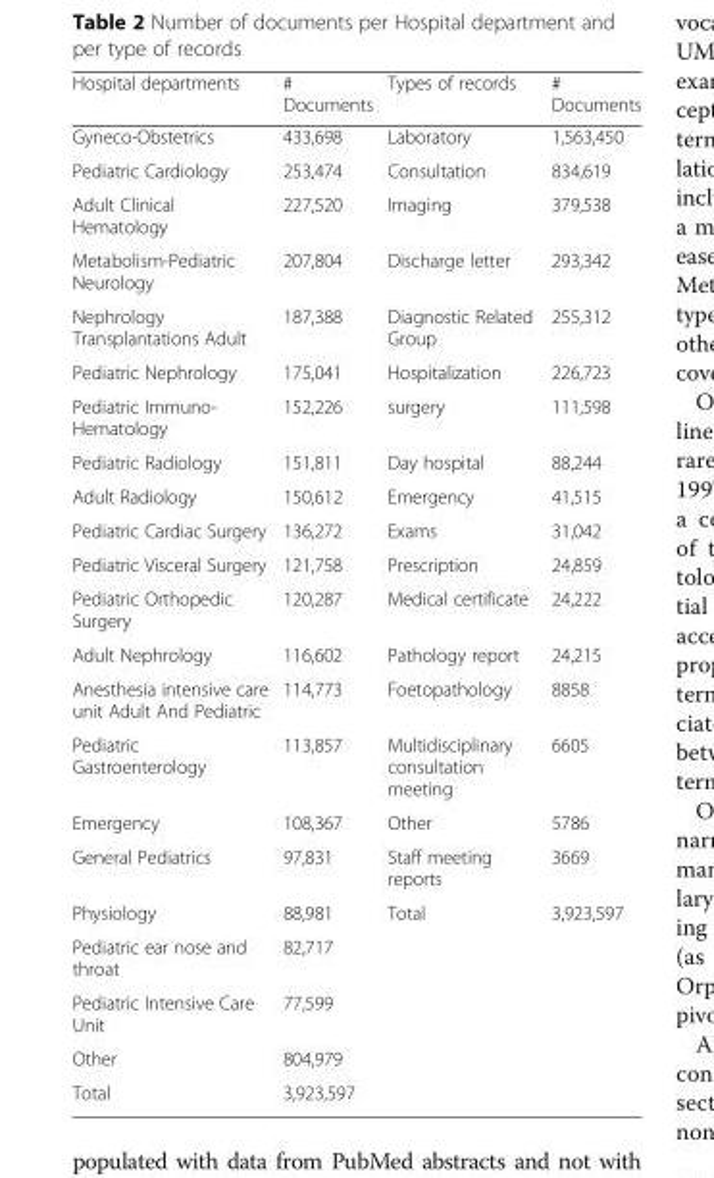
<table><thead><tr><td>Hospital departments</td><td># Documents</td><td>Types of records</td><td># Documents</td></tr></thead><tbody><tr><td>Gyneco-Obstetrics</td><td>433,698</td><td>Laboratory</td><td>1,563,450</td></tr><tr><td>Pediatric Cardiology</td><td>253,474</td><td>Consultation</td><td>834,619</td></tr><tr><td>Adult Clinical Hematology</td><td>227,520</td><td>Imaging</td><td>379,538</td></tr><tr><td>Metabolism-Pediatric Neurology</td><td>207,804</td><td>Discharge letter</td><td>293,342</td></tr><tr><td>Nephrology Transplantations Adult</td><td>187,388</td><td>Diagnostic Related Group</td><td>255,312</td></tr><tr><td>Pediatric Nephrology</td><td>175,041</td><td>Hospitalization</td><td>226,723</td></tr><tr><td>Pediatric Immuno- Hematology</td><td>152,226</td><td>surgery</td><td>111,598</td></tr><tr><td>Pediatric Radiology</td><td>151,811</td><td>Day hospital</td><td>88,244</td></tr><tr><td>Adult Radiology</td><td>150,612</td><td>Emergency</td><td>41,515</td></tr><tr><td>Pediatric Cardiac Surgery</td><td>136,272</td><td>Exams</td><td>31,042</td></tr><tr><td>Pediatric Visceral Surgery</td><td>121,758</td><td>Prescription</td><td>24,859</td></tr><tr><td>Pediatric Orthopedic Surgery</td><td>120,287</td><td>Medical certificate</td><td>24,222</td></tr><tr><td>Adult Nephrology</td><td>116,602</td><td>Pathology report</td><td>24,215</td></tr><tr><td>Anesthesia intensive care unit Adult And Pediatric</td><td>114,773</td><td>Foetopathology</td><td>8858</td></tr><tr><td>Pediatric Gastroenterology</td><td>113,857</td><td>Multidisciplinary consultation meeting</td><td>6605</td></tr><tr><td>Emergency</td><td>108,367</td><td>Other</td><td>5786</td></tr><tr><td>General Pediatrics</td><td>97,831</td><td>Staff meeting reports</td><td>3669</td></tr><tr><td>Physiology</td><td>88,981</td><td>Total</td><td>3,923,597</td></tr><tr><td>Pediatric ear nose and throat</td><td>82,717</td><td></td><td></td></tr><tr><td>Pediatric Intensive Care Unit</td><td>77,599</td><td></td><td></td></tr><tr><td>Other</td><td>804,979</td><td></td><td></td></tr><tr><td>Total</td><td>3,923,597</td><td></td><td></td></tr></tbody></table>